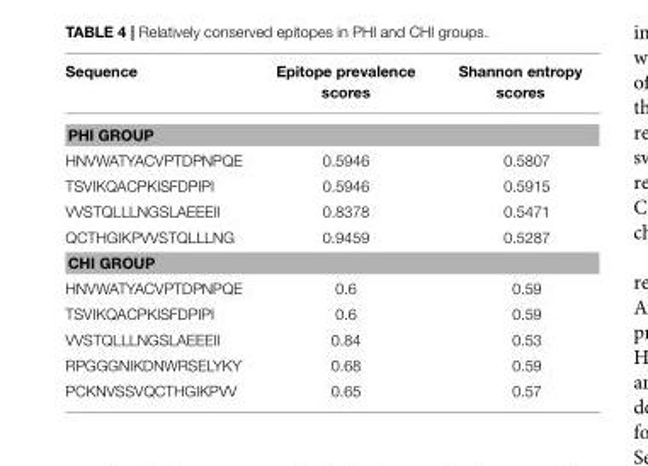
<table><thead><tr><td>Sequence</td><td>Epitope prevalence scores</td><td>Shannon entropy scores</td></tr></thead><tbody><tr><td colspan="3">PHI GROUP</td></tr><tr><td>HNVWATYACVPTDPNPQE</td><td>0.5946</td><td>0.5807</td></tr><tr><td>TSVIKQACPKISFDPIPI</td><td>0.5946</td><td>0.5915</td></tr><tr><td>VVSTQLLLNGSLAEEEII</td><td>0.8378</td><td>0.5471</td></tr><tr><td>QCTHGIKPVVSTQLLLNG</td><td>0.9459</td><td>0.5287</td></tr><tr><td colspan="3">CHI GROUP</td></tr><tr><td>HNVWATYACVPTDPNPQE</td><td>0.6</td><td>0.59</td></tr><tr><td>TSVIKQACPKISFDPIPI</td><td>0.6</td><td>0.59</td></tr><tr><td>VVSTQLLLNGSLAEEEII</td><td>0.84</td><td>0.53</td></tr><tr><td>RPGGGNIKDNWRSELYKY</td><td>0.68</td><td>0.59</td></tr><tr><td>PCKNVSSVQCTHGIKPVV</td><td>0.65</td><td>0.57</td></tr></tbody></table>